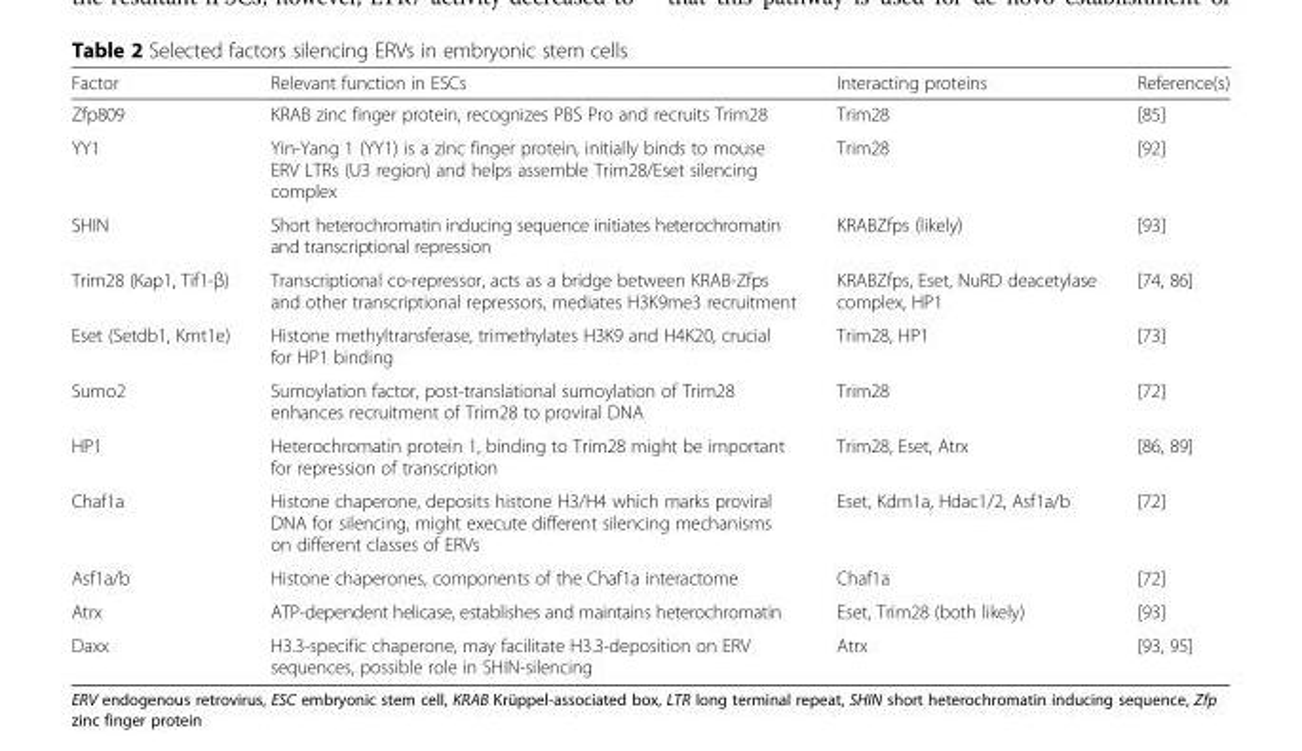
<table><thead><tr><td>Factor</td><td>Relevant function in ESCs</td><td>Interacting proteins</td><td>Reference(s)</td></tr></thead><tbody><tr><td>Zfp809</td><td>KRAB zinc finger protein, recognizes PBS Pro and recruits Trim28</td><td>Trim28</td><td>[85]</td></tr><tr><td>YY1</td><td>Yin-Yang 1 (YY1) is a zinc finger protein, initially binds to mouse ERV LTRs (U3 region) and helps assemble Trim28/Eset silencing complex</td><td>Trim28</td><td>[92]</td></tr><tr><td>SHIN</td><td>Short heterochromatin inducing sequence initiates heterochromatin and transcriptional repression</td><td>KRABZfps (likely)</td><td>[93]</td></tr><tr><td>Trim28 (Kap1, Tif1-β)</td><td>Transcriptional co-repressor, acts as a bridge between KRAB-Zfps and other transcriptional repressors, mediates H3K9me3 recruitment</td><td>KRABZfps, Eset, NuRD deacetylase complex, HP1</td><td>[74, 86]</td></tr><tr><td>Eset (Setdb1, Kmt1e)</td><td>Histone methyltransferase, trimethylates H3K9 and H4K20, crucial for HP1 binding</td><td>Trim28, HP1</td><td>[73]</td></tr><tr><td>Sumo2</td><td>Sumoylation factor, post-translational sumoylation of Trim28 enhances recruitment of Trim28 to proviral DNA</td><td>Trim28</td><td>[72]</td></tr><tr><td>HP1</td><td>Heterochromatin protein 1, binding to Trim28 might be important for repression of transcription</td><td>Trim28, Eset, Atrx</td><td>[86, 89]</td></tr><tr><td>Chaf1a</td><td>Histone chaperone, deposits histone H3/H4 which marks proviral DNA for silencing, might execute different silencing mechanisms on different classes of ERVs</td><td>Eset, Kdm1a, Hdac1/2, Asf1a/b</td><td>[72]</td></tr><tr><td>Asf1a/b</td><td>Histone chaperones, components of the Chaf1a interactome</td><td>Chaf1a</td><td>[72]</td></tr><tr><td>Atrx</td><td>ATP-dependent helicase, establishes and maintains heterochromatin</td><td>Eset, Trim28 (both likely)</td><td>[93]</td></tr><tr><td>Daxx</td><td>H3.3-specific chaperone, may facilitate H3.3-deposition on ERV sequences, possible role in SHIN-silencing</td><td>Atrx</td><td>[93, 95]</td></tr></tbody></table>